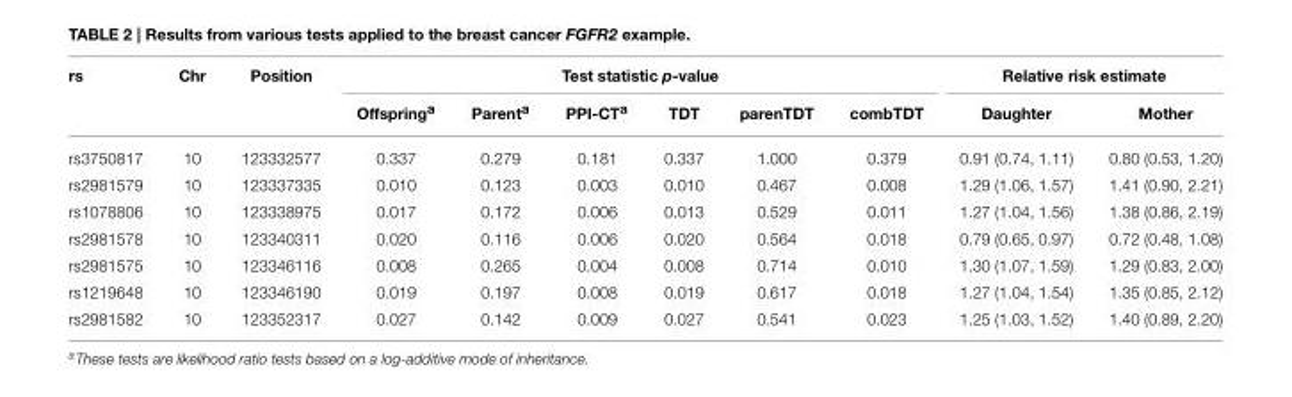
<table><thead><tr><td rowspan="2">rs</td><td rowspan="2">Chr</td><td rowspan="2">Position</td><td colspan="6">Test statistic p-value</td><td colspan="2">Relative risk estimate</td></tr><tr><td>Offspring<sup>a</sup></td><td>Parent<sup>a</sup></td><td>PPI-CT<sup>a</sup></td><td>TDT</td><td>parenTDT</td><td>combTDT</td><td>Daughter</td><td>Mother</td></tr></thead><tbody><tr><td>rs3750817</td><td>10</td><td>123332577</td><td>0.337</td><td>0.279</td><td>0.181</td><td>0.337</td><td>1.000</td><td>0.379</td><td>0.91 (0.74, 1.11)</td><td>0.80 (0.53, 1.20)</td></tr><tr><td>rs2981579</td><td>10</td><td>123337335</td><td>0.010</td><td>0.123</td><td>0.003</td><td>0.010</td><td>0.467</td><td>0.008</td><td>1.29 (1.06, 1.57)</td><td>1.41 (0.90, 2.21)</td></tr><tr><td>rs1078806</td><td>10</td><td>123338975</td><td>0.017</td><td>0.172</td><td>0.006</td><td>0.013</td><td>0.529</td><td>0.011</td><td>1.27 (1.04, 1.56)</td><td>1.38 (0.86, 2.19)</td></tr><tr><td>rs2981578</td><td>10</td><td>123340311</td><td>0.020</td><td>0.116</td><td>0.006</td><td>0.020</td><td>0.564</td><td>0.018</td><td>0.79 (0.65, 0.97)</td><td>0.72 (0.48, 1.08)</td></tr><tr><td>rs2981575</td><td>10</td><td>123346116</td><td>0.008</td><td>0.265</td><td>0.004</td><td>0.008</td><td>0.714</td><td>0.010</td><td>1.30 (1.07, 1.59)</td><td>1.29 (0.83, 2.00)</td></tr><tr><td>rs1219648</td><td>10</td><td>123346190</td><td>0.019</td><td>0.197</td><td>0.008</td><td>0.019</td><td>0.617</td><td>0.018</td><td>1.27 (1.04, 1.54)</td><td>1.35 (0.85, 2.12)</td></tr><tr><td>rs2981582</td><td>10</td><td>123352317</td><td>0.027</td><td>0.142</td><td>0.009</td><td>0.027</td><td>0.541</td><td>0.023</td><td>1.25 (1.03, 1.52)</td><td>1.40 (0.89, 2.20)</td></tr></tbody></table>